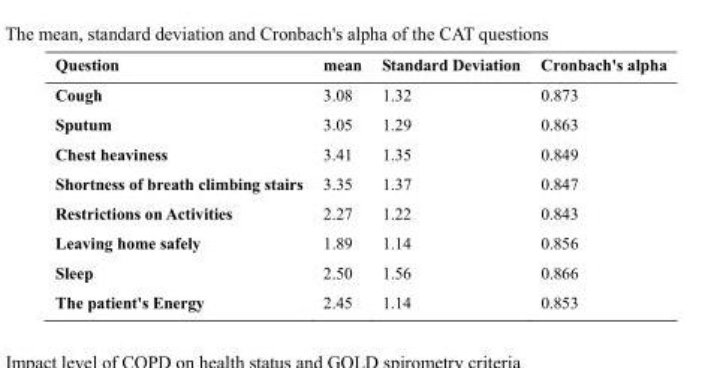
<table><thead><tr><td>Question</td><td>mean</td><td>Standard Deviation</td><td>Cronbach&#x27;s alpha</td></tr></thead><tbody><tr><td>Cough</td><td>3.08</td><td>1.32</td><td>0.873</td></tr><tr><td>Sputum</td><td>3.05</td><td>1.29</td><td>0.863</td></tr><tr><td>Chest heaviness</td><td>3.41</td><td>1.35</td><td>0.849</td></tr><tr><td>Shortness of breath climbing stairs</td><td>3.35</td><td>1.37</td><td>0.847</td></tr><tr><td>Restrictions on Activities</td><td>2.27</td><td>1.22</td><td>0.843</td></tr><tr><td>Leaving home safely</td><td>1.89</td><td>1.14</td><td>0.856</td></tr><tr><td>Sleep</td><td>2.50</td><td>1.56</td><td>0.866</td></tr><tr><td>The patient&#x27;s Energy</td><td>2.45</td><td>1.14</td><td>0.853</td></tr></tbody></table>